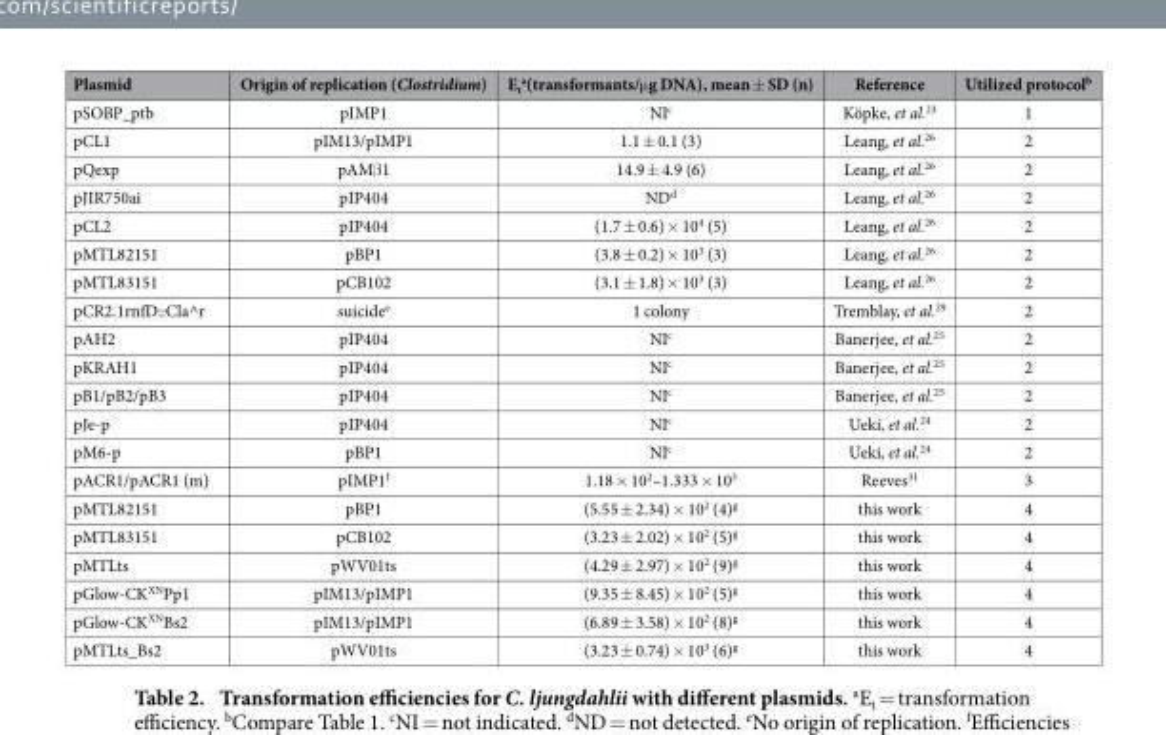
<table><thead><tr><td>Plasmid</td><td>Origin of replication (Clostridium)</td><td>E<sub>t</sub> <sup>a</sup>(transformants/μ g DNA), mean ± SD (n)</td><td>Reference</td><td>Utilized protocol<sup>b</sup></td></tr></thead><tbody><tr><td>pSOBP_ptb</td><td>pIMP1</td><td>NI<sup>c</sup></td><td>Köpke, et al.<sup>23</sup></td><td>1</td></tr><tr><td>pCL1</td><td>pIM13/pIMP1</td><td>1.1 ± 0.1 (3)</td><td>Leang, et al.<sup>26</sup></td><td>2</td></tr><tr><td>pQexp</td><td>pAMβ 1</td><td>14.9 ± 4.9 (6)</td><td>Leang, et al.<sup>26</sup></td><td>2</td></tr><tr><td>pJIR750ai</td><td>pIP404</td><td>ND<sup>d</sup></td><td>Leang, et al.<sup>26</sup></td><td>2</td></tr><tr><td>pCL2</td><td>pIP404</td><td>(1.7 ± 0.6) × 10<sup>4</sup> (5)</td><td>Leang, et al.<sup>26</sup></td><td>2</td></tr><tr><td>pMTL82151</td><td>pBP1</td><td>(3.8 ± 0.2) × 10<sup>3</sup> (3)</td><td>Leang, et al.<sup>26</sup></td><td>2</td></tr><tr><td>pMTL83151</td><td>pCB102</td><td>(3.1 ± 1.8) × 10<sup>3</sup> (3)</td><td>Leang, et al.<sup>26</sup></td><td>2</td></tr><tr><td>pCR2.1rnfD::Cla^r</td><td>suicide<sup>e</sup></td><td>1 colony</td><td>Tremblay, et al.<sup>29</sup></td><td>2</td></tr><tr><td>pAH2</td><td>pIP404</td><td>NI<sup>c</sup></td><td>Banerjee, et al.<sup>25</sup></td><td>2</td></tr><tr><td>pKRAH1</td><td>pIP404</td><td>NI<sup>c</sup></td><td>Banerjee, et al.<sup>25</sup></td><td>2</td></tr><tr><td>pB1/pB2/pB3</td><td>pIP404</td><td>NI<sup>c</sup></td><td>Banerjee, et al.<sup>25</sup></td><td>2</td></tr><tr><td>pJe-p</td><td>pIP404</td><td>NI<sup>c</sup></td><td>Ueki, et al.<sup>24</sup></td><td>2</td></tr><tr><td>pM6-p</td><td>pBP1</td><td>NI<sup>c</sup></td><td>Ueki, et al.<sup>24</sup></td><td>2</td></tr><tr><td>pACR1/pACR1 (m)</td><td>pIMP1<sup>f</sup></td><td>1.18 × 10<sup>2</sup>–1.333 × 10<sup>3</sup></td><td>Reeves<sup>31</sup></td><td>3</td></tr><tr><td>pMTL82151</td><td>pBP1</td><td>(5.55 ± 2.34) × 10<sup>2</sup> (4)<sup>g</sup></td><td>this work</td><td>4</td></tr><tr><td>pMTL83151</td><td>pCB102</td><td>(3.23 ± 2.02) × 10<sup>2</sup> (5)<sup>g</sup></td><td>this work</td><td>4</td></tr><tr><td>pMTLts</td><td>pWV01ts</td><td>(4.29 ± 2.97) × 10<sup>2</sup> (9)<sup>g</sup></td><td>this work</td><td>4</td></tr><tr><td>pGlow-CK<sup>XN</sup>Pp1</td><td>pIM13/pIMP1</td><td>(9.35 ± 8.45) × 10<sup>2</sup> (5)<sup>g</sup></td><td>this work</td><td>4</td></tr><tr><td>pGlow-CK<sup>XN</sup>Bs2</td><td>pIM13/pIMP1</td><td>(6.89 ± 3.58) × 10<sup>2</sup> (8)<sup>g</sup></td><td>this work</td><td>4</td></tr><tr><td>pMTLts_Bs2</td><td>pWV01ts</td><td>(3.23 ± 0.74) × 10<sup>3</sup> (6)<sup>g</sup></td><td>this work</td><td>4</td></tr></tbody></table>